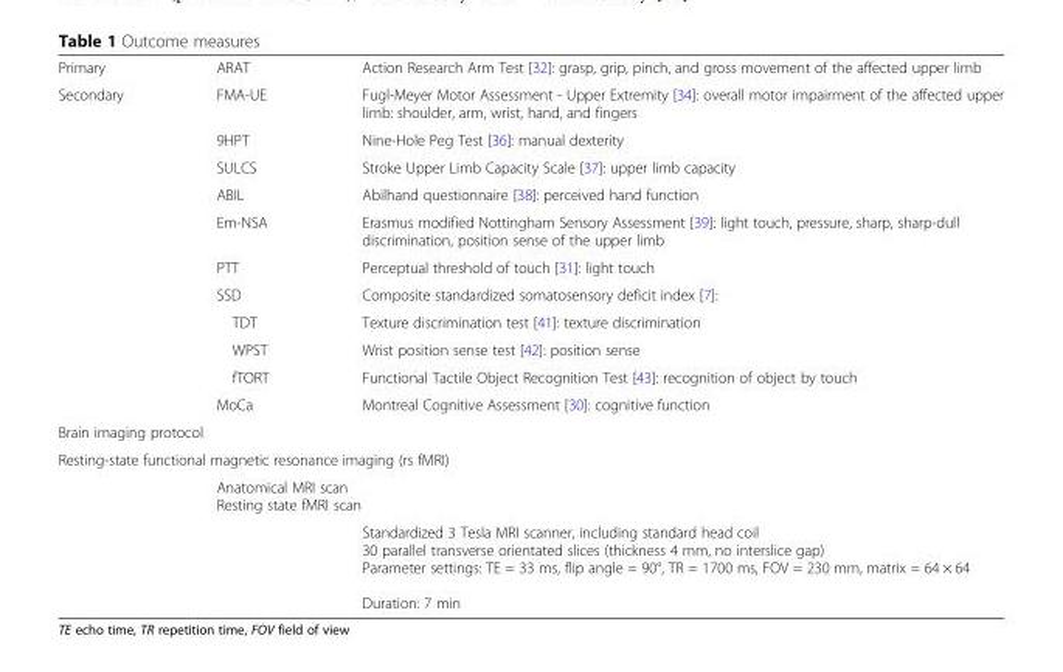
<table><tbody><tr><td>Primary</td><td>ARAT</td><td>Action Research Arm Test [32]: grasp, grip, pinch, and gross movement of the affected upper limb</td></tr><tr><td rowspan="11">Secondary</td><td>FMA-UE</td><td>Fugl-Meyer Motor Assessment - Upper Extremity [34]: overall motor impairment of the affected upper limb: shoulder, arm, wrist, hand, and fingers</td></tr><tr><td>9HPT</td><td>Nine-Hole Peg Test [36]: manual dexterity</td></tr><tr><td>SULCS</td><td>Stroke Upper Limb Capacity Scale [37]: upper limb capacity</td></tr><tr><td>ABIL</td><td>Abilhand questionnaire [38]: perceived hand function</td></tr><tr><td>Em-NSA</td><td>Erasmus modified Nottingham Sensory Assessment [39]: light touch, pressure, sharp, sharp-dull discrimination, position sense of the upper limb</td></tr><tr><td>PTT</td><td>Perceptual threshold of touch [31]: light touch</td></tr><tr><td>SSD</td><td>Composite standardized somatosensory deficit index [7]:</td></tr><tr><td>TDT</td><td>Texture discrimination test [41]: texture discrimination</td></tr><tr><td>WPST</td><td>Wrist position sense test [42]: position sense</td></tr><tr><td>fTORT</td><td>Functional Tactile Object Recognition Test [43]: recognition of object by touch</td></tr><tr><td>MoCa</td><td>Montreal Cognitive Assessment [30]: cognitive function</td></tr><tr><td colspan="3">Brain imaging protocol</td></tr><tr><td colspan="3">Resting-state functional magnetic resonance imaging (rs fMRI)</td></tr><tr><td rowspan="2"></td><td colspan="2">Anatomical MRI scan Resting state fMRI scan</td></tr><tr><td></td><td>Standardized 3 Tesla MRI scanner, including standard head coil 30 parallel transverse orientated slices (thickness 4 mm, no interslice gap) Parameter settings: TE = 33 ms, flip angle = 90°, TR = 1700 ms, FOV = 230 mm, matrix = 64 × 64 Duration: 7 min</td></tr></tbody></table>